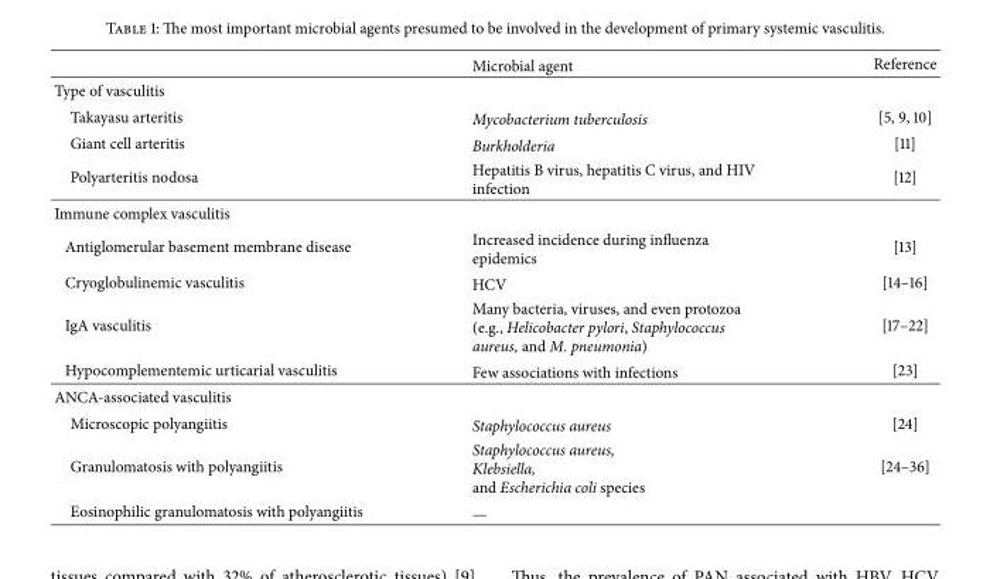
<table><thead><tr><td></td><td>Microbial agent</td><td>Reference</td></tr></thead><tbody><tr><td colspan="3">Type of vasculitis</td></tr><tr><td>Takayasu arteritis</td><td>Mycobacterium tuberculosis</td><td>[5, 9, 10]</td></tr><tr><td>Giant cell arteritis</td><td>Burkholderia</td><td>[11]</td></tr><tr><td>Polyarteritis nodosa</td><td>Hepatitis B virus, hepatitis C virus, and HIV infection</td><td>[12]</td></tr><tr><td colspan="3">Immune complex vasculitis</td></tr><tr><td>Antiglomerular basement membrane disease</td><td>Increased incidence during influenza epidemics</td><td>[13]</td></tr><tr><td>Cryoglobulinemic vasculitis</td><td>HCV</td><td>[14–16]</td></tr><tr><td>IgA vasculitis</td><td>Many bacteria, viruses, and even protozoa (e.g., Helicobacter pylori, Staphylococcus aureus, and M. pneumonia)</td><td>[17–22]</td></tr><tr><td>Hypocomplementemic urticarial vasculitis</td><td>Few associations with infections</td><td>[23]</td></tr><tr><td colspan="3">ANCA-associated vasculitis</td></tr><tr><td>Microscopic polyangiitis</td><td>Staphylococcus aureus</td><td>[24]</td></tr><tr><td>Granulomatosis with polyangiitis</td><td>Staphylococcus aureus, Klebsiella, and Escherichia coli species</td><td>[24–36]</td></tr><tr><td>Eosinophilic granulomatosis with polyangiitis</td><td>—</td><td></td></tr></tbody></table>